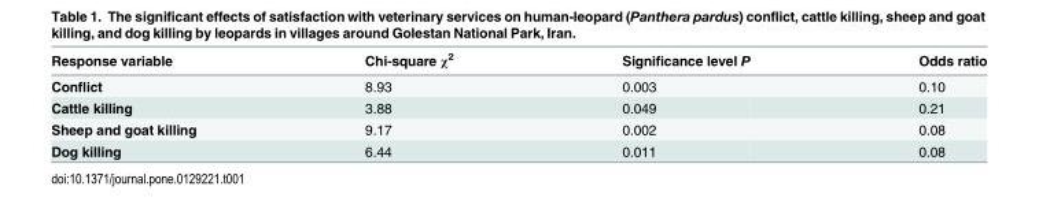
<table><thead><tr><td>Response variable</td><td>Chi-square χ<sup>2</sup></td><td>Significance level P</td><td>Odds ratio</td></tr></thead><tbody><tr><td>Conflict</td><td>8.93</td><td>0.003</td><td>0.10</td></tr><tr><td>Cattle killing</td><td>3.88</td><td>0.049</td><td>0.21</td></tr><tr><td>Sheep and goat killing</td><td>9.17</td><td>0.002</td><td>0.08</td></tr><tr><td>Dog killing</td><td>6.44</td><td>0.011</td><td>0.08</td></tr></tbody></table>